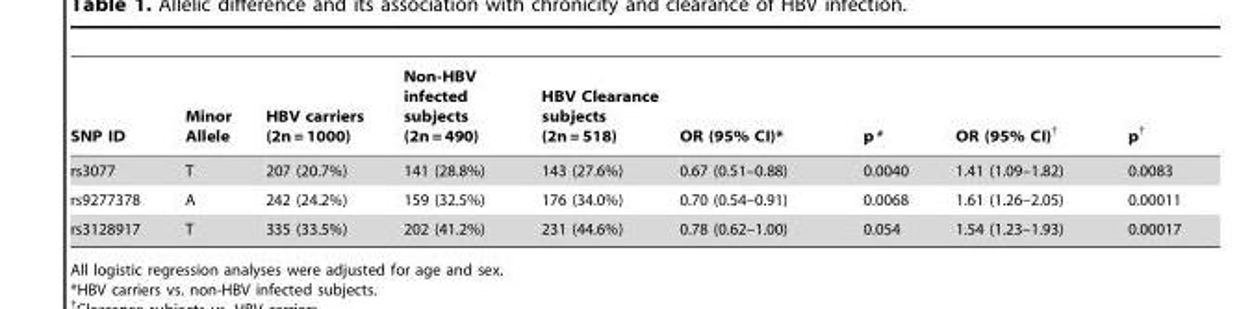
<table><thead><tr><td>SNP ID</td><td>Minor Allele</td><td>HBV carriers (2n = 1000)</td><td>Non-HBV infected subjects (2n = 490)</td><td>HBV Clearance subjects (2n = 518)</td><td>OR (95% CI)*</td><td>p*</td><td>OR (95% CI)†</td><td>p†</td></tr></thead><tbody><tr><td>rs3077</td><td>T</td><td>207 (20.7%)</td><td>141 (28.8%)</td><td>143 (27.6%)</td><td>0.67 (0.51–0.88)</td><td>0.0040</td><td>1.41 (1.09–1.82)</td><td>0.0083</td></tr><tr><td>rs9277378</td><td>A</td><td>242 (24.2%)</td><td>159 (32.5%)</td><td>176 (34.0%)</td><td>0.70 (0.54–0.91)</td><td>0.0068</td><td>1.61 (1.26–2.05)</td><td>0.00011</td></tr><tr><td>rs3128917</td><td>T</td><td>335 (33.5%)</td><td>202 (41.2%)</td><td>231 (44.6%)</td><td>0.78 (0.62–1.00)</td><td>0.054</td><td>1.54 (1.23–1.93)</td><td>0.00017</td></tr></tbody></table>